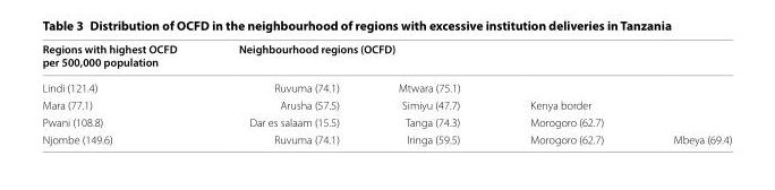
<table><thead><tr><td rowspan="2">Regions with highest OCFD per 500,000 population Lindi (121.4)</td><td colspan="4">Neighbourhood regions (OCFD)</td></tr><tr><td>Ruvuma (74.1)</td><td>Mtwara (75.1)</td><td></td><td></td></tr></thead><tbody><tr><td>Mara (77.1)</td><td>Arusha (57.5)</td><td>Simiyu (47.7)</td><td>Kenya border</td><td></td></tr><tr><td>Pwani (108.8)</td><td>Dar es salaam (15.5)</td><td>Tanga (74.3)</td><td>Morogoro (62.7)</td><td></td></tr><tr><td>Njombe (149.6)</td><td>Ruvuma (74.1)</td><td>Iringa (59.5)</td><td>Morogoro (62.7)</td><td>Mbeya (69.4)</td></tr></tbody></table>